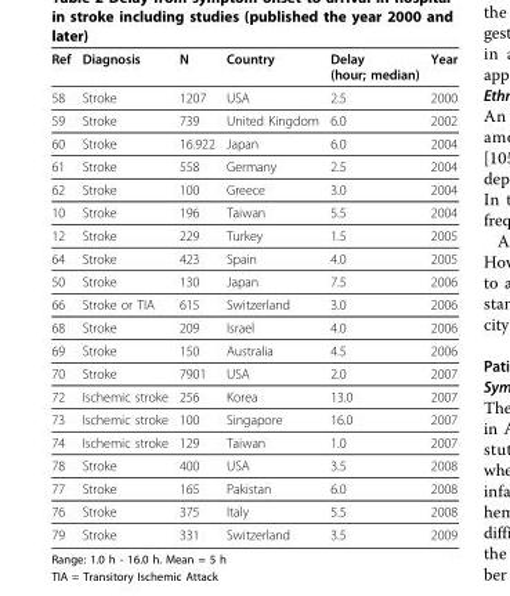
<table><thead><tr><td>Ref</td><td>Diagnosis</td><td>N</td><td>Country</td><td>Delay (hour; median)</td><td>Year</td></tr></thead><tbody><tr><td>58</td><td>Stroke</td><td>1207</td><td>USA</td><td>2.5</td><td>2000</td></tr><tr><td>59</td><td>Stroke</td><td>739</td><td>United Kingdom</td><td>6.0</td><td>2002</td></tr><tr><td>60</td><td>Stroke</td><td>16.922</td><td>Japan</td><td>6.0</td><td>2004</td></tr><tr><td>61</td><td>Stroke</td><td>558</td><td>Germany</td><td>2.5</td><td>2004</td></tr><tr><td>62</td><td>Stroke</td><td>100</td><td>Greece</td><td>3.0</td><td>2004</td></tr><tr><td>10</td><td>Stroke</td><td>196</td><td>Taiwan</td><td>5.5</td><td>2004</td></tr><tr><td>12</td><td>Stroke</td><td>229</td><td>Turkey</td><td>1.5</td><td>2005</td></tr><tr><td>64</td><td>Stroke</td><td>423</td><td>Spain</td><td>4.0</td><td>2005</td></tr><tr><td>50</td><td>Stroke</td><td>130</td><td>Japan</td><td>7.5</td><td>2006</td></tr><tr><td>66</td><td>Stroke or TIA</td><td>615</td><td>Switzerland</td><td>3.0</td><td>2006</td></tr><tr><td>68</td><td>Stroke</td><td>209</td><td>Israel</td><td>4.0</td><td>2006</td></tr><tr><td>69</td><td>Stroke</td><td>150</td><td>Australia</td><td>4.5</td><td>2006</td></tr><tr><td>70</td><td>Stroke</td><td>7901</td><td>USA</td><td>2.0</td><td>2007</td></tr><tr><td>72</td><td>Ischemic stroke</td><td>256</td><td>Korea</td><td>13.0</td><td>2007</td></tr><tr><td>73</td><td>Ischemic stroke</td><td>100</td><td>Singapore</td><td>16.0</td><td>2007</td></tr><tr><td>74</td><td>Ischemic stroke</td><td>129</td><td>Taiwan</td><td>1.0</td><td>2007</td></tr><tr><td>78</td><td>Stroke</td><td>400</td><td>USA</td><td>3.5</td><td>2008</td></tr><tr><td>77</td><td>Stroke</td><td>165</td><td>Pakistan</td><td>6.0</td><td>2008</td></tr><tr><td>76</td><td>Stroke</td><td>375</td><td>Italy</td><td>5.5</td><td>2008</td></tr><tr><td>79</td><td>Stroke</td><td>331</td><td>Switzerland</td><td>3.5</td><td>2009</td></tr></tbody></table>